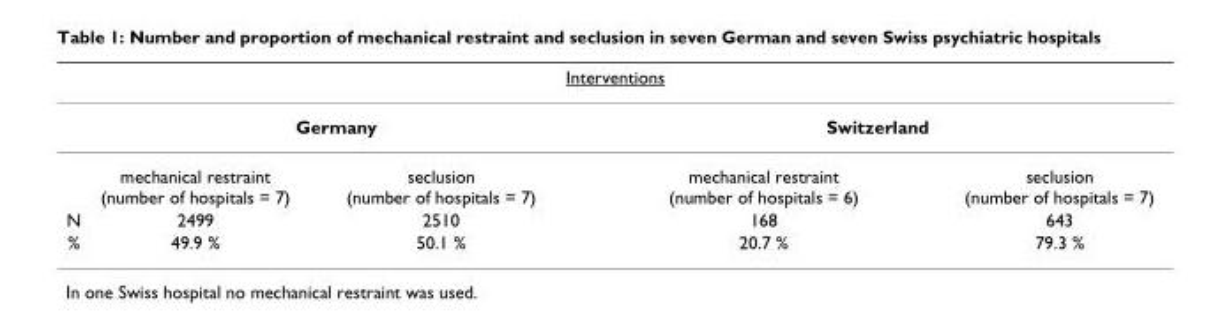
<table><thead><tr><td colspan="5">Interventions</td></tr><tr><td rowspan="2"></td><td colspan="2">Germany</td><td colspan="2">Switzerland</td></tr><tr><td>mechanical restraint (number of hospitals = 7)</td><td>seclusion (number of hospitals = 7)</td><td>mechanical restraint (number of hospitals = 6)</td><td>seclusion (number of hospitals = 7)</td></tr></thead><tbody><tr><td>N</td><td>2499</td><td>2510</td><td>168</td><td>643</td></tr><tr><td>%</td><td>49.9 %</td><td>50.1 %</td><td>20.7 %</td><td>79.3 %</td></tr></tbody></table>